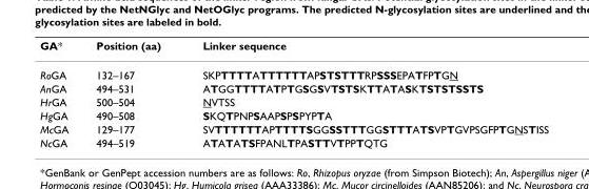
<table><thead><tr><td>GA*</td><td>Position (aa)</td><td>Linker sequence</td></tr></thead><tbody><tr><td>RoGA</td><td>132–167</td><td>SKPTTTTATTTTTTAPSTSTTTRPSSSEPATFPTGN</td></tr><tr><td>AnGA</td><td>494–531</td><td>ATGGTTTTATPTGSGSVTSTSKTTATASKTSTSTSSTS</td></tr><tr><td>HrGA</td><td>500–504</td><td>NVTSS</td></tr><tr><td>HgGA</td><td>490–508</td><td>SKQTPNPSAAPSPSPYPTA</td></tr><tr><td>McGA</td><td>129–177</td><td>SVTTTTTTAPTTTTSGGSSTTTGGSTTTATSVPTGVPSGFPTGNSTISS</td></tr><tr><td>NcGA</td><td>494–519</td><td>ATATATSFPANLTPASTTVTPPTQTG</td></tr></tbody></table>